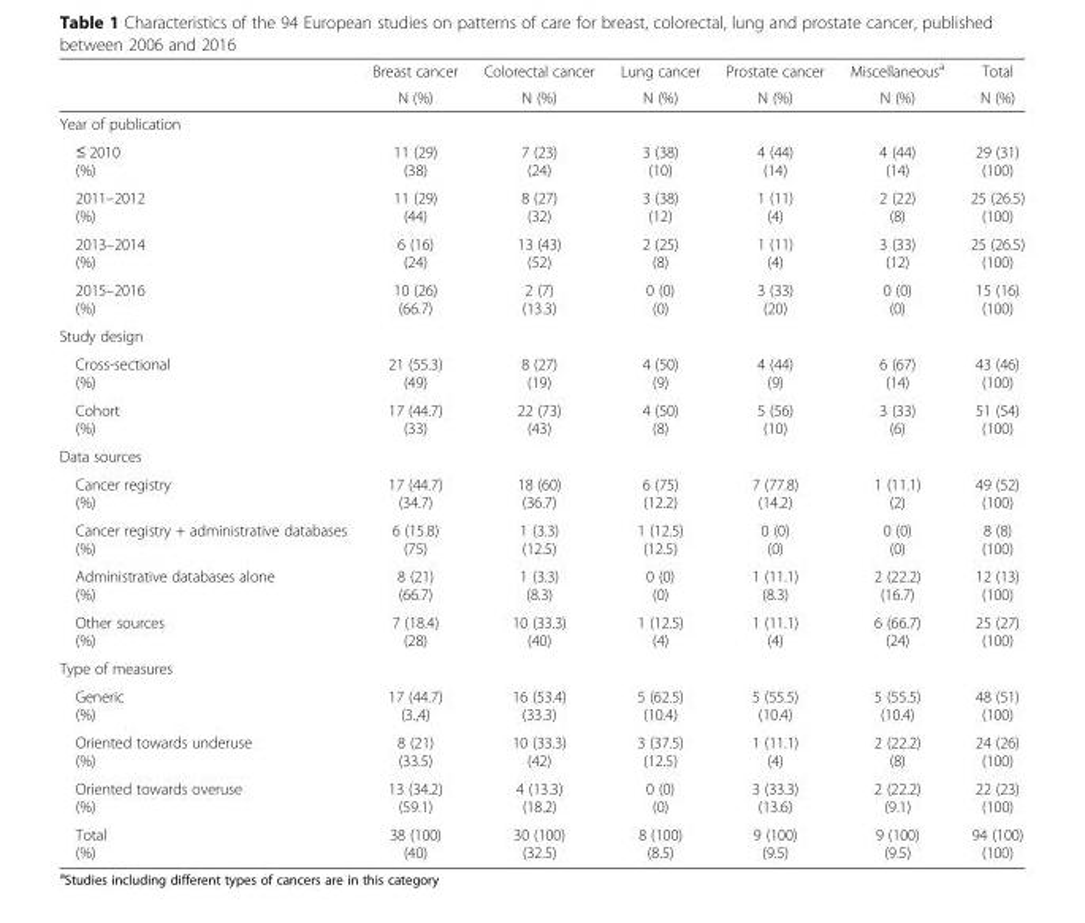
<table><thead><tr><td rowspan="2"></td><td rowspan="2">Breast cancer N (%)</td><td rowspan="2">Colorectal cancer N (%)</td><td rowspan="2">Lung cancer N (%)</td><td rowspan="2">Prostate cancer N (%)</td><td rowspan="2">Miscellaneous<sup>a</sup> N (%)</td><td rowspan="2">Total N (%)</td></tr><tr></tr></thead><tbody><tr><td colspan="7">Year of publication</td></tr><tr><td>≤ 2010 (%)</td><td>11 (29) (38)</td><td>7 (23) (24)</td><td>3 (38) (10)</td><td>4 (44) (14)</td><td>4 (44) (14)</td><td>29 (31) (100)</td></tr><tr><td>2011–2012 (%)</td><td>11 (29) (44)</td><td>8 (27) (32)</td><td>3 (38) (12)</td><td>1 (11) (4)</td><td>2 (22) (8)</td><td>25 (26.5) (100)</td></tr><tr><td>2013–2014 (%)</td><td>6 (16) (24)</td><td>13 (43) (52)</td><td>2 (25) (8)</td><td>1 (11) (4)</td><td>3 (33) (12)</td><td>25 (26.5) (100)</td></tr><tr><td>2015–2016 (%)</td><td>10 (26) (66.7)</td><td>2 (7) (13.3)</td><td>0 (0) (0)</td><td>3 (33) (20)</td><td>0 (0) (0)</td><td>15 (16) (100)</td></tr><tr><td colspan="7">Study design</td></tr><tr><td>Cross-sectional (%)</td><td>21 (55.3) (49)</td><td>8 (27) (19)</td><td>4 (50) (9)</td><td>4 (44) (9)</td><td>6 (67) (14)</td><td>43 (46) (100)</td></tr><tr><td>Cohort (%)</td><td>17 (44.7) (33)</td><td>22 (73) (43)</td><td>4 (50) (8)</td><td>5 (56) (10)</td><td>3 (33) (6)</td><td>51 (54) (100)</td></tr><tr><td colspan="7">Data sources</td></tr><tr><td>Cancer registry (%)</td><td>17 (44.7) (34.7)</td><td>18 (60) (36.7)</td><td>6 (75) (12.2)</td><td>7 (77.8) (14.2)</td><td>1 (11.1) (2)</td><td>49 (52) (100)</td></tr><tr><td>Cancer registry + administrative databases (%)</td><td>6 (15.8) (75)</td><td>1 (3.3) (12.5)</td><td>1 (12.5) (12.5)</td><td>0 (0) (0)</td><td>0 (0) (0)</td><td>8 (8) (100)</td></tr><tr><td>Administrative databases alone (%)</td><td>8 (21) (66.7)</td><td>1 (3.3) (8.3)</td><td>0 (0) (0)</td><td>1 (11.1) (8.3)</td><td>2 (22.2) (16.7)</td><td>12 (13) (100)</td></tr><tr><td>Other sources (%)</td><td>7 (18.4) (28)</td><td>10 (33.3) (40)</td><td>1 (12.5) (4)</td><td>1 (11.1) (4)</td><td>6 (66.7) (24)</td><td>25 (27) (100)</td></tr><tr><td colspan="7">Type of measures</td></tr><tr><td>Generic (%)</td><td>17 (44.7) (3.,4)</td><td>16 (53.4) (33.3)</td><td>5 (62.5) (10.4)</td><td>5 (55.5) (10.4)</td><td>5 (55.5) (10.4)</td><td>48 (51) (100)</td></tr><tr><td>Oriented towards underuse (%)</td><td>8 (21) (33.5)</td><td>10 (33.3) (42)</td><td>3 (37.5) (12.5)</td><td>1 (11.1) (4)</td><td>2 (22.2) (8)</td><td>24 (26) (100)</td></tr><tr><td>Oriented towards overuse (%)</td><td>13 (34.2) (59.1)</td><td>4 (13.3) (18.2)</td><td>0 (0) (0)</td><td>3 (33.3) (13.6)</td><td>2 (22.2) (9.1)</td><td>22 (23) (100)</td></tr><tr><td>Total (%)</td><td>38 (100) (40)</td><td>30 (100) (32.5)</td><td>8 (100) (8.5)</td><td>9 (100) (9.5)</td><td>9 (100) (9.5)</td><td>94 (100) (100)</td></tr></tbody></table>